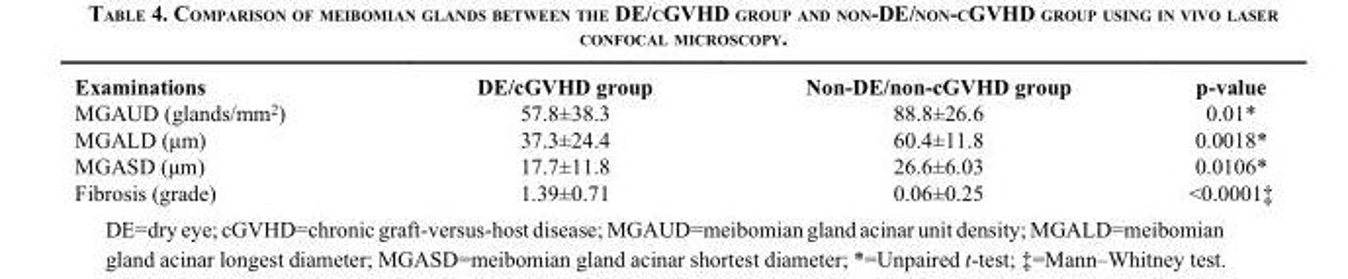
<table><thead><tr><td>Examinations</td><td>DE/cGVHD group</td><td>Non-DE/non-cGVHD group</td><td>p-value</td></tr></thead><tbody><tr><td>MGAUD (glands/mm<sup>2</sup>)</td><td>57.8±38.3</td><td>88.8±26.6</td><td>0.01*</td></tr><tr><td>MGALD (μm)</td><td>37.3±24.4</td><td>60.4±11.8</td><td>0.0018*</td></tr><tr><td>MGASD (μm)</td><td>17.7±11.8</td><td>26.6±6.03</td><td>0.0106*</td></tr><tr><td>Fibrosis (grade)</td><td>1.39±0.71</td><td>0.06±0.25</td><td>&lt;0.0001‡</td></tr></tbody></table>